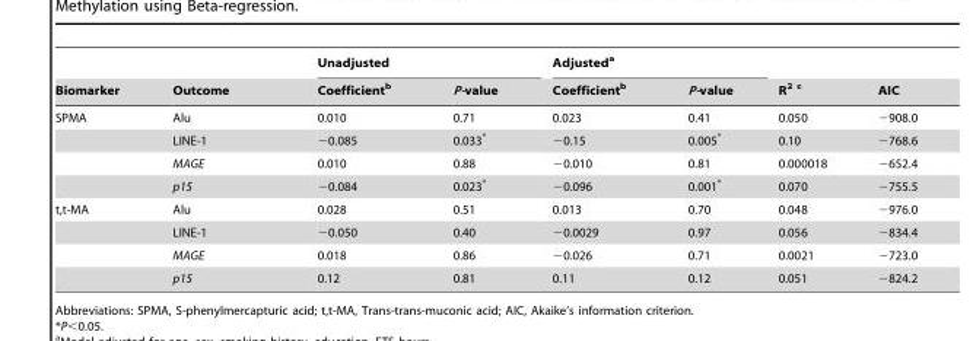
<table><thead><tr><td rowspan="2">Biomarker</td><td rowspan="2">Outcome</td><td colspan="2">Unadjusted</td><td colspan="2">Adjusted<sup>a</sup></td><td rowspan="2">R<sup>2</sup> c</td><td rowspan="2">AIC</td></tr><tr><td>Coefficient<sup>b</sup></td><td>P-value</td><td>Coefficient<sup>b</sup></td><td>P-value</td></tr></thead><tbody><tr><td rowspan="4">SPMA</td><td>Alu</td><td>0.010</td><td>0.71</td><td>0.023</td><td>0.41</td><td>0.050</td><td>−908.0</td></tr><tr><td>LINE-1</td><td>−0.085</td><td>0.033*</td><td>−0.15</td><td>0.005*</td><td>0.10</td><td>−768.6</td></tr><tr><td>MAGE</td><td>0.010</td><td>0.88</td><td>−0.010</td><td>0.81</td><td>0.000018</td><td>−652.4</td></tr><tr><td>p15</td><td>−0.084</td><td>0.023*</td><td>−0.096</td><td>0.001*</td><td>0.070</td><td>−755.5</td></tr><tr><td rowspan="4">t,t-MA</td><td>Alu</td><td>0.028</td><td>0.51</td><td>0.013</td><td>0.70</td><td>0.048</td><td>−976.0</td></tr><tr><td>LINE-1</td><td>−0.050</td><td>0.40</td><td>−0.0029</td><td>0.97</td><td>0.056</td><td>−834.4</td></tr><tr><td>MAGE</td><td>0.018</td><td>0.86</td><td>−0.026</td><td>0.71</td><td>0.0021</td><td>−723.0</td></tr><tr><td>p15</td><td>0.12</td><td>0.81</td><td>0.11</td><td>0.12</td><td>0.051</td><td>−824.2</td></tr></tbody></table>